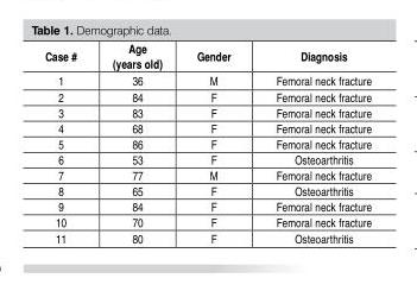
<table><thead><tr><td>Case #</td><td>Age (years old)</td><td>Gender</td><td>Diagnosis</td></tr></thead><tbody><tr><td>1</td><td>36</td><td>M</td><td>Femoral neck fracture</td></tr><tr><td>2</td><td>84</td><td>F</td><td>Femoral neck fracture</td></tr><tr><td>3</td><td>83</td><td>F</td><td>Femoral neck fracture</td></tr><tr><td>4</td><td>68</td><td>F</td><td>Femoral neck fracture</td></tr><tr><td>5</td><td>86</td><td>F</td><td>Femoral neck fracture</td></tr><tr><td>6</td><td>53</td><td>F</td><td>Osteoarthritis</td></tr><tr><td>7</td><td>77</td><td>M</td><td>Femoral neck fracture</td></tr><tr><td>8</td><td>65</td><td>F</td><td>Osteoarthritis</td></tr><tr><td>9</td><td>84</td><td>F</td><td>Femoral neck fracture</td></tr><tr><td>10</td><td>70</td><td>F</td><td>Femoral neck fracture</td></tr><tr><td>11</td><td>80</td><td>F</td><td>Osteoarthritis</td></tr></tbody></table>